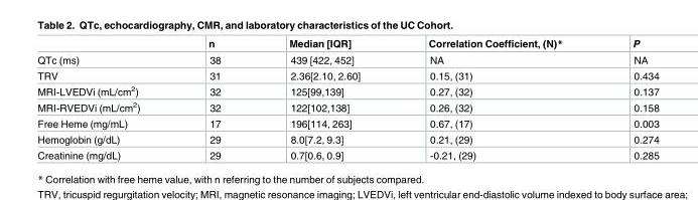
<table><thead><tr><td></td><td>n</td><td>Median [IQR]</td><td>Correlation Coefficient, (N)*</td><td>P</td></tr></thead><tbody><tr><td>QTc (ms)</td><td>38</td><td>439 [422, 452]</td><td>NA</td><td>NA</td></tr><tr><td>TRV</td><td>31</td><td>2.36[2.10, 2.60]</td><td>0.15, (31)</td><td>0.434</td></tr><tr><td>MRI-LVEDVi (mL/cm<sup>2</sup>)</td><td>32</td><td>125[99,139]</td><td>0.27, (32)</td><td>0.137</td></tr><tr><td>MRI-RVEDVi (mL/cm<sup>2</sup>)</td><td>32</td><td>122[102,138]</td><td>0.26, (32)</td><td>0.158</td></tr><tr><td>Free Heme (mg/mL)</td><td>17</td><td>196[114, 263]</td><td>0.67, (17)</td><td>0.003</td></tr><tr><td>Hemoglobin (g/dL)</td><td>29</td><td>8.0[7.2, 9.3]</td><td>0.21, (29)</td><td>0.274</td></tr><tr><td>Creatinine (mg/dL)</td><td>29</td><td>0.7[0.6, 0.9]</td><td>-0.21, (29)</td><td>0.285</td></tr></tbody></table>